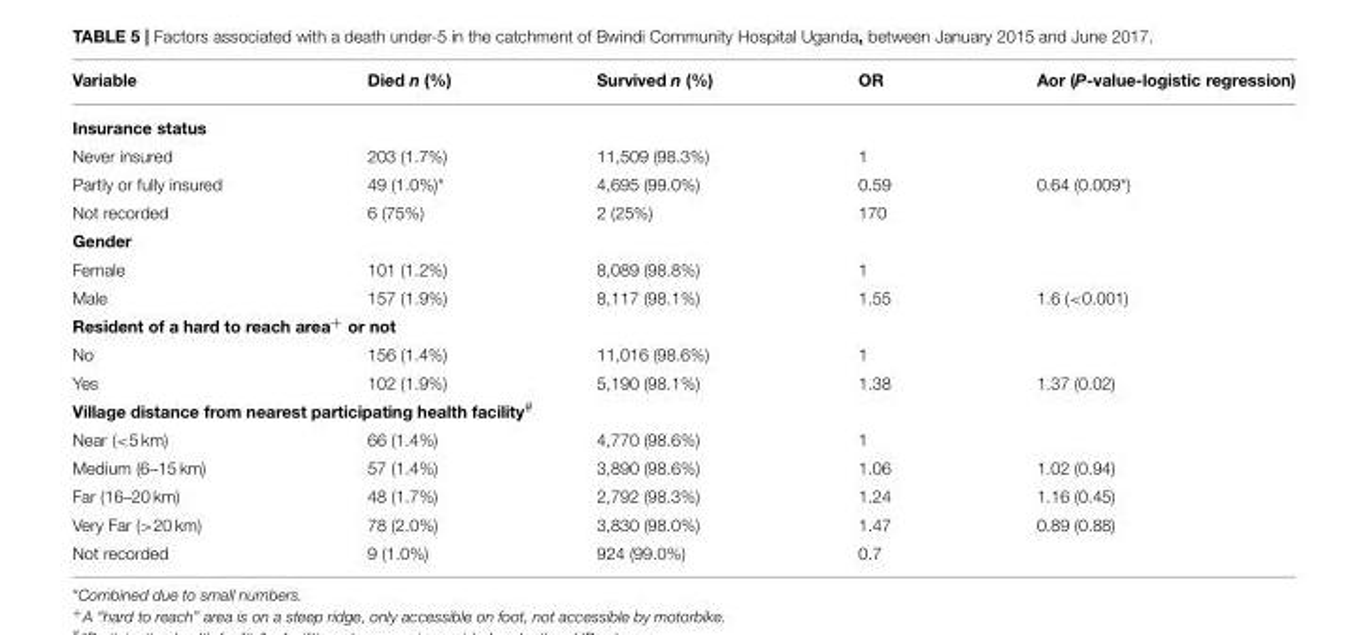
<table><thead><tr><td>Variable</td><td>Died n (%)</td><td>Survived n (%)</td><td>OR</td><td>Aor (P-value-logistic regression)</td></tr></thead><tbody><tr><td colspan="5">Insurance status</td></tr><tr><td>Never insured</td><td>203 (1.7%)</td><td>11,509 (98.3%)</td><td>1</td><td></td></tr><tr><td>Partly or fully insured</td><td>49 (1.0%)*</td><td>4,695 (99.0%)</td><td>0.59</td><td>0.64 (0.009*)</td></tr><tr><td>Not recorded</td><td>6 (75%)</td><td>2 (25%)</td><td>170</td><td></td></tr><tr><td colspan="5">Gender</td></tr><tr><td>Female</td><td>101 (1.2%)</td><td>8,089 (98.8%)</td><td>1</td><td></td></tr><tr><td>Male</td><td>157 (1.9%)</td><td>8,117 (98.1%)</td><td>1.55</td><td>1.6 (&lt;0.001)</td></tr><tr><td colspan="5">Resident of a hard to reach area<sup>+</sup> or not</td></tr><tr><td>No</td><td>156 (1.4%)</td><td>11,016 (98.6%)</td><td>1</td><td></td></tr><tr><td>Yes</td><td>102 (1.9%)</td><td>5,190 (98.1%)</td><td>1.38</td><td>1.37 (0.02)</td></tr><tr><td colspan="5">Village distance from nearest participating health facility<sup>#</sup></td></tr><tr><td>Near (&lt;5 km)</td><td>66 (1.4%)</td><td>4,770 (98.6%)</td><td>1</td><td></td></tr><tr><td>Medium (6–15 km)</td><td>57 (1.4%)</td><td>3,890 (98.6%)</td><td>1.06</td><td>1.02 (0.94)</td></tr><tr><td>Far (16–20 km)</td><td>48 (1.7%)</td><td>2,792 (98.3%)</td><td>1.24</td><td>1.16 (0.45)</td></tr><tr><td>Very Far (&gt;20 km)</td><td>78 (2.0%)</td><td>3,830 (98.0%)</td><td>1.47</td><td>0.89 (0.88)</td></tr><tr><td>Not recorded</td><td>9 (1.0%)</td><td>924 (99.0%)</td><td>0.7</td><td></td></tr></tbody></table>